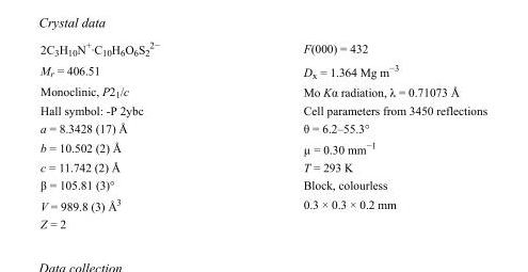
<table><tbody><tr><td>2C<sub>3</sub>H<sub>10</sub>N<sup>+</sup>·C<sub>10</sub>H<sub>6</sub>O<sub>6</sub>S<sub>2</sub> <sup>2−</sup></td><td>F(000) = 432</td></tr><tr><td>M<sub>r</sub> = 406.51</td><td>D<sub>x</sub> = 1.364 Mg m<sup>−3</sup></td></tr><tr><td>Monoclinic, P2<sub>1</sub>/c</td><td>Mo Kα radiation, λ = 0.71073 Å</td></tr><tr><td>Hall symbol: -P 2ybc</td><td>Cell parameters from 3450 reflections</td></tr><tr><td>a = 8.3428 (17) Å</td><td>θ = 6.2–55.3°</td></tr><tr><td>b = 10.502 (2) Å</td><td>µ = 0.30 mm<sup>−1</sup></td></tr><tr><td>c = 11.742 (2) Å</td><td>T = 293 K</td></tr><tr><td>β = 105.81 (3)°</td><td>Block, colourless</td></tr><tr><td>V = 989.8 (3) Å<sup>3</sup></td><td>0.3 × 0.3 × 0.2 mm</td></tr><tr><td>Z = 2</td><td></td></tr></tbody></table>